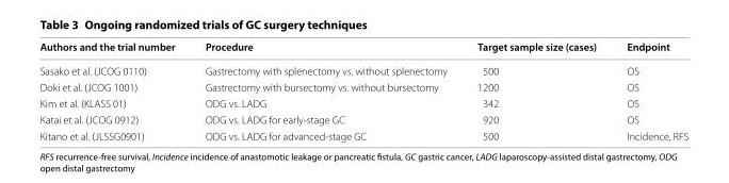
<table><thead><tr><td>Authors and the trial number</td><td>Procedure</td><td>Target sample size (cases)</td><td>Endpoint</td></tr></thead><tbody><tr><td>Sasako et al. (JCOG 0110)</td><td>Gastrectomy with splenectomy vs. without splenectomy</td><td>500</td><td>OS</td></tr><tr><td>Doki et al. (JCOG 1001)</td><td>Gastrectomy with bursectomy vs. without bursectomy</td><td>1200</td><td>OS</td></tr><tr><td>Kim et al. (KLASS 01)</td><td>ODG vs. LADG</td><td>342</td><td>OS</td></tr><tr><td>Katai et al. (JCOG 0912)</td><td>ODG vs. LADG for early-stage GC</td><td>920</td><td>OS</td></tr><tr><td>Kitano et al. (JLSSG0901)</td><td>ODG vs. LADG for advanced-stage GC</td><td>500</td><td>Incidence, RFS</td></tr></tbody></table>